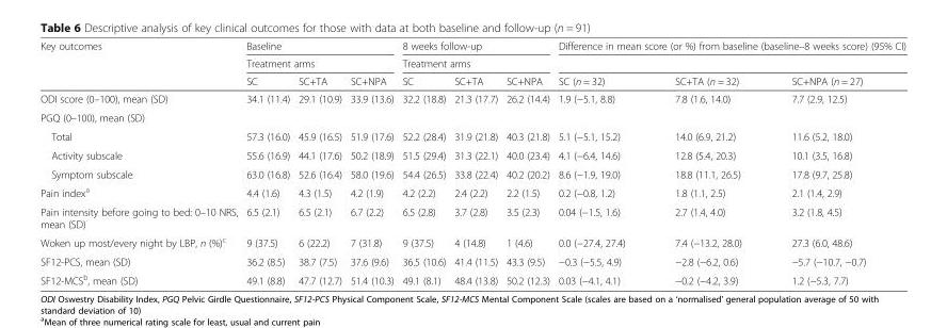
<table><thead><tr><td rowspan="3">Key outcomes</td><td rowspan="2" colspan="3">Baseline Treatment arms</td><td rowspan="2" colspan="3">8 weeks follow-up Treatment arms</td><td colspan="3">Difference in mean score (or %) from baseline (baseline–8 weeks score) (95% CI)</td></tr><tr><td rowspan="2">SC (n = 32)</td><td rowspan="2">SC+TA (n = 32)</td><td rowspan="2">SC+NPA (n = 27)</td></tr><tr><td>SC</td><td>SC+TA</td><td>SC+NPA</td><td>SC</td><td>SC+TA</td><td>SC+NPA</td></tr></thead><tbody><tr><td>ODI score (0–100), mean (SD)</td><td>34.1 (11.4)</td><td>29.1 (10.9)</td><td>33.9 (13.6)</td><td>32.2 (18.8)</td><td>21.3 (17.7)</td><td>26.2 (14.4)</td><td>1.9 (−5.1, 8.8)</td><td>7.8 (1.6, 14.0)</td><td>7.7 (2.9, 12.5)</td></tr><tr><td colspan="10">PGQ (0–100), mean (SD)</td></tr><tr><td>Total</td><td>57.3 (16.0)</td><td>45.9 (16.5)</td><td>51.9 (17.6)</td><td>52.2 (28.4)</td><td>31.9 (21.8)</td><td>40.3 (21.8)</td><td>5.1 (−5.1, 15.2)</td><td>14.0 (6.9, 21.2)</td><td>11.6 (5.2, 18.0)</td></tr><tr><td>Activity subscale</td><td>55.6 (16.9)</td><td>44.1 (17.6)</td><td>50.2 (18.9)</td><td>51.5 (29.4)</td><td>31.3 (22.1)</td><td>40.0 (23.4)</td><td>4.1 (−6.4, 14.6)</td><td>12.8 (5.4, 20.3)</td><td>10.1 (3.5, 16.8)</td></tr><tr><td>Symptom subscale</td><td>63.0 (16.8)</td><td>52.6 (16.4)</td><td>58.0 (19.6)</td><td>54.4 (26.5)</td><td>33.8 (22.4)</td><td>40.2 (20.2)</td><td>8.6 (−1.9, 19.0)</td><td>18.8 (11.1, 26.5)</td><td>17.8 (9.7, 25.8)</td></tr><tr><td>Pain index<sup>a</sup></td><td>4.4 (1.6)</td><td>4.3 (1.5)</td><td>4.2 (1.9)</td><td>4.2 (2.2)</td><td>2.4 (2.2)</td><td>2.2 (1.5)</td><td>0.2 (−0.8, 1.2)</td><td>1.8 (1.1, 2.5)</td><td>2.1 (1.4, 2.9)</td></tr><tr><td>Pain intensity before going to bed: 0–10 NRS, mean (SD)</td><td>6.5 (2.1)</td><td>6.5 (2.1)</td><td>6.7 (2.2)</td><td>6.5 (2.8)</td><td>3.7 (2.8)</td><td>3.5 (2.3)</td><td>0.04 (−1.5, 1.6)</td><td>2.7 (1.4, 4.0)</td><td>3.2 (1.8, 4.5)</td></tr><tr><td>Woken up most/every night by LBP, n (%)<sup>c</sup></td><td>9 (37.5)</td><td>6 (22.2)</td><td>7 (31.8)</td><td>9 (37.5)</td><td>4 (14.8)</td><td>1 (4.6)</td><td>0.0 (−27.4, 27.4)</td><td>7.4 (−13.2, 28.0)</td><td>27.3 (6.0, 48.6)</td></tr><tr><td>SF12-PCS, mean (SD)</td><td>36.2 (8.5)</td><td>38.7 (7.5)</td><td>37.6 (9.6)</td><td>36.5 (10.6)</td><td>41.4 (11.5)</td><td>43.3 (9.5)</td><td>−0.3 (−5.5, 4.9)</td><td>−2.8 (−6.2, 0.6)</td><td>−5.7 (−10.7, −0.7)</td></tr><tr><td>SF12-MCS<sup>b</sup>, mean (SD)</td><td>49.1 (8.8)</td><td>47.7 (12.7)</td><td>51.4 (10.3)</td><td>49.1 (8.1)</td><td>48.4 (13.8)</td><td>50.2 (12.3)</td><td>0.03 (−4.1, 4.1)</td><td>−0.2 (−4.2, 3.9)</td><td>1.2 (−5.3, 7.7)</td></tr></tbody></table>